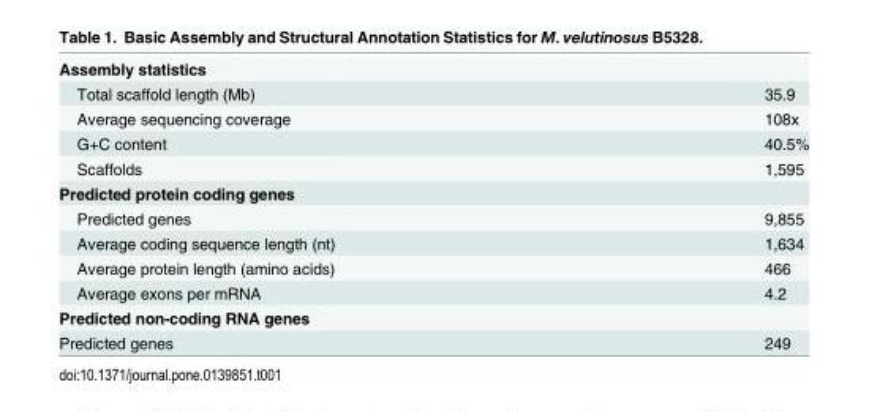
<table><tbody><tr><td colspan="2">Assembly statistics</td></tr><tr><td>Total scaffold length (Mb)</td><td>35.9</td></tr><tr><td>Average sequencing coverage</td><td>108x</td></tr><tr><td>G+C content</td><td>40.5%</td></tr><tr><td>Scaffolds</td><td>1,595</td></tr><tr><td colspan="2">Predicted protein coding genes</td></tr><tr><td>Predicted genes</td><td>9,855</td></tr><tr><td>Average coding sequence length (nt)</td><td>1,634</td></tr><tr><td>Average protein length (amino acids)</td><td>466</td></tr><tr><td>Average exons per mRNA</td><td>4.2</td></tr><tr><td colspan="2">Predicted non-coding RNA genes</td></tr><tr><td>Predicted genes</td><td>249</td></tr></tbody></table>